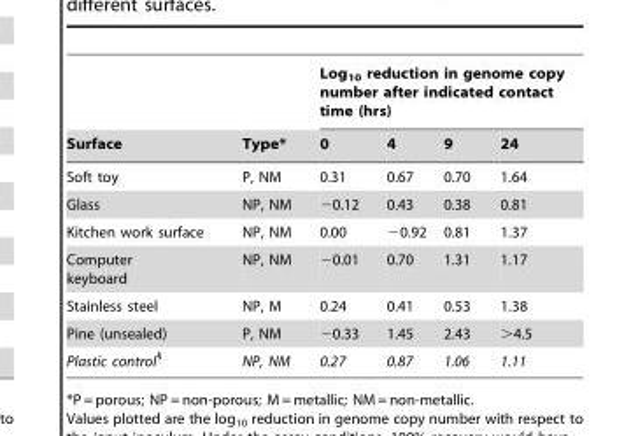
<table><thead><tr><td rowspan="2">Surface</td><td rowspan="2">Type*</td><td colspan="4">Log<sub>10</sub> reduction in genome copy number after indicated contact time (hrs)</td></tr><tr><td>0</td><td>4</td><td>9</td><td>24</td></tr></thead><tbody><tr><td>Soft toy</td><td>P, NM</td><td>0.31</td><td>0.67</td><td>0.70</td><td>1.64</td></tr><tr><td>Glass</td><td>NP, NM</td><td>−0.12</td><td>0.43</td><td>0.38</td><td>0.81</td></tr><tr><td>Kitchen work surface</td><td>NP, NM</td><td>0.00</td><td>−0.92</td><td>0.81</td><td>1.37</td></tr><tr><td>Computer keyboard</td><td>NP, NM</td><td>−0.01</td><td>0.70</td><td>1.31</td><td>1.17</td></tr><tr><td>Stainless steel</td><td>NP, M</td><td>0.24</td><td>0.41</td><td>0.53</td><td>1.38</td></tr><tr><td>Pine (unsealed)</td><td>P, NM</td><td>−0.33</td><td>1.45</td><td>2.43</td><td>&gt;4.5</td></tr><tr><td>Plastic control§</td><td>NP, NM</td><td>0.27</td><td>0.87</td><td>1.06</td><td>1.11</td></tr></tbody></table>